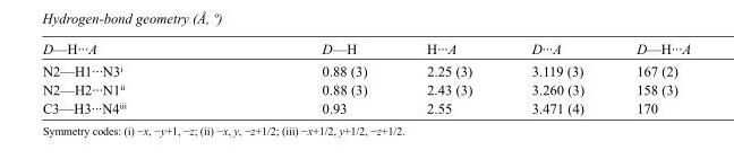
<table><tbody><tr><td>D—H···A</td><td>D—H</td><td>H···A</td><td>D···A</td><td>D—H···A</td></tr><tr><td>N2—H1···N3<sup>i</sup></td><td>0.88 (3)</td><td>2.25 (3)</td><td>3.119 (3)</td><td>167 (2)</td></tr><tr><td>N2—H2···N1<sup>ii</sup></td><td>0.88 (3)</td><td>2.43 (3)</td><td>3.260 (3)</td><td>158 (3)</td></tr><tr><td>C3—H3···N4<sup>iii</sup></td><td>0.93</td><td>2.55</td><td>3.471 (4)</td><td>170</td></tr></tbody></table>